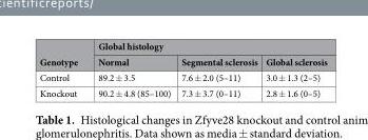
<table><thead><tr><td rowspan="2">Genotype</td><td colspan="3">Global histology</td></tr><tr><td>Normal</td><td>Segmental sclerosis</td><td>Global sclerosis</td></tr></thead><tbody><tr><td>Control</td><td>89.2 ± 3.5</td><td>7.6 ± 2.0 (5–11)</td><td>3.0 ± 1.3 (2–5)</td></tr><tr><td>Knockout</td><td>90.2 ± 4.8 (85–100)</td><td>7.3 ± 3.7 (0–11)</td><td>2.8 ± 1.6 (0–5)</td></tr></tbody></table>